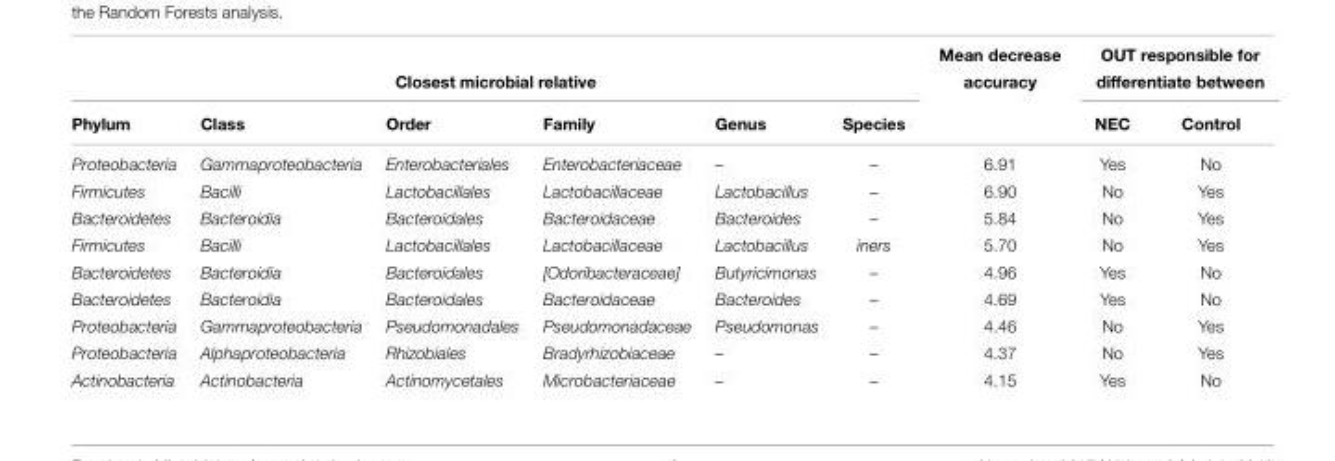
<table><thead><tr><td colspan="6">Closest microbial relative</td><td rowspan="2">accuracy</td><td colspan="2">differentiate between</td></tr><tr><td>Phylum</td><td>Class</td><td>Order</td><td>Family</td><td>Genus</td><td>Species</td><td>NEC</td><td>Control</td></tr></thead><tbody><tr><td>Proteobacteria</td><td>Gammaproteobacteria</td><td>Enterobacteriales</td><td>Enterobacteriaceae</td><td>–</td><td>–</td><td>6.91</td><td>Yes</td><td>No</td></tr><tr><td>Firmicutes</td><td>Bacilli</td><td>Lactobacillales</td><td>Lactobacillaceae</td><td>Lactobacillus</td><td>–</td><td>6.90</td><td>No</td><td>Yes</td></tr><tr><td>Bacteroidetes</td><td>Bacteroidia</td><td>Bacteroidales</td><td>Bacteroidaceae</td><td>Bacteroides</td><td>–</td><td>5.84</td><td>No</td><td>Yes</td></tr><tr><td>Firmicutes</td><td>Bacilli</td><td>Lactobacillales</td><td>Lactobacillaceae</td><td>Lactobacillus</td><td>iners</td><td>5.70</td><td>No</td><td>Yes</td></tr><tr><td>Bacteroidetes</td><td>Bacteroidia</td><td>Bacteroidales</td><td>[Odoribacteraceae]</td><td>Butyricimonas</td><td>–</td><td>4.96</td><td>Yes</td><td>No</td></tr><tr><td>Bacteroidetes</td><td>Bacteroidia</td><td>Bacteroidales</td><td>Bacteroidaceae</td><td>Bacteroides</td><td>–</td><td>4.69</td><td>Yes</td><td>No</td></tr><tr><td>Proteobacteria</td><td>Gammaproteobacteria</td><td>Pseudomonadales</td><td>Pseudomonadaceae</td><td>Pseudomonas</td><td>–</td><td>4.46</td><td>No</td><td>Yes</td></tr><tr><td>Proteobacteria</td><td>Alphaproteobacteria</td><td>Rhizobiales</td><td>Bradyrhizobiaceae</td><td>–</td><td>–</td><td>4.37</td><td>No</td><td>Yes</td></tr><tr><td>Actinobacteria</td><td>Actinobacteria</td><td>Actinomycetales</td><td>Microbacteriaceae</td><td>–</td><td>–</td><td>4.15</td><td>Yes</td><td>No</td></tr></tbody></table>